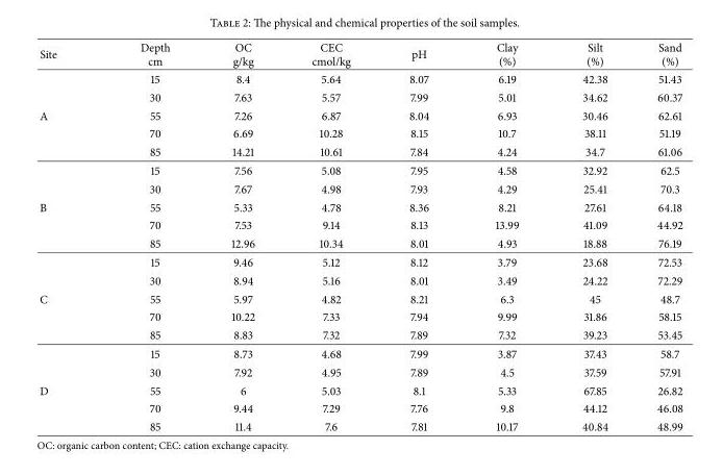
<table><thead><tr><td>Site</td><td>Depth cm</td><td>OC g/kg</td><td>CEC cmol/kg</td><td>pH</td><td>Clay (%)</td><td>Silt (%)</td><td>Sand (%)</td></tr></thead><tbody><tr><td></td><td>15</td><td>8.4</td><td>5.64</td><td>8.07</td><td>6.19</td><td>42.38</td><td>51.43</td></tr><tr><td></td><td>30</td><td>7.63</td><td>5.57</td><td>7.99</td><td>5.01</td><td>34.62</td><td>60.37</td></tr><tr><td rowspan="5">A</td><td>55</td><td>7.26</td><td>6.87</td><td>8.04</td><td>6.93</td><td>30.46</td><td>62.61</td></tr><tr><td>70</td><td>6.69</td><td>10.28</td><td>8.15</td><td>10.7</td><td>38.11</td><td>51.19</td></tr><tr><td>85</td><td>14.21</td><td>10.61</td><td>7.84</td><td>4.24</td><td>34.7</td><td>61.06</td></tr><tr><td>15</td><td>7.56</td><td>5.08</td><td>7.95</td><td>4.58</td><td>32.92</td><td>62.5</td></tr><tr><td>30</td><td>7.67</td><td>4.98</td><td>7.93</td><td>4.29</td><td>25.41</td><td>70.3</td></tr><tr><td rowspan="5">B</td><td>55</td><td>5.33</td><td>4.78</td><td>8.36</td><td>8.21</td><td>27.61</td><td>64.18</td></tr><tr><td>70</td><td>7.53</td><td>9.14</td><td>8.13</td><td>13.99</td><td>41.09</td><td>44.92</td></tr><tr><td>85</td><td>12.96</td><td>10.34</td><td>8.01</td><td>4.93</td><td>18.88</td><td>76.19</td></tr><tr><td>15</td><td>9.46</td><td>5.12</td><td>8.12</td><td>3.79</td><td>23.68</td><td>72.53</td></tr><tr><td>30</td><td>8.94</td><td>5.16</td><td>8.01</td><td>3.49</td><td>24.22</td><td>72.29</td></tr><tr><td rowspan="5">C</td><td>55</td><td>5.97</td><td>4.82</td><td>8.21</td><td>6.3</td><td>45</td><td>48.7</td></tr><tr><td>70</td><td>10.22</td><td>7.33</td><td>7.94</td><td>9.99</td><td>31.86</td><td>58.15</td></tr><tr><td>85</td><td>8.83</td><td>7.32</td><td>7.89</td><td>7.32</td><td>39.23</td><td>53.45</td></tr><tr><td>15</td><td>8.73</td><td>4.68</td><td>7.99</td><td>3.87</td><td>37.43</td><td>58.7</td></tr><tr><td>30</td><td>7.92</td><td>4.95</td><td>7.89</td><td>4.5</td><td>37.59</td><td>57.91</td></tr><tr><td rowspan="3">D</td><td>55</td><td>6</td><td>5.03</td><td>8.1</td><td>5.33</td><td>67.85</td><td>26.82</td></tr><tr><td>70</td><td>9.44</td><td>7.29</td><td>7.76</td><td>9.8</td><td>44.12</td><td>46.08</td></tr><tr><td>85</td><td>11.4</td><td>7.6</td><td>7.81</td><td>10.17</td><td>40.84</td><td>48.99</td></tr></tbody></table>